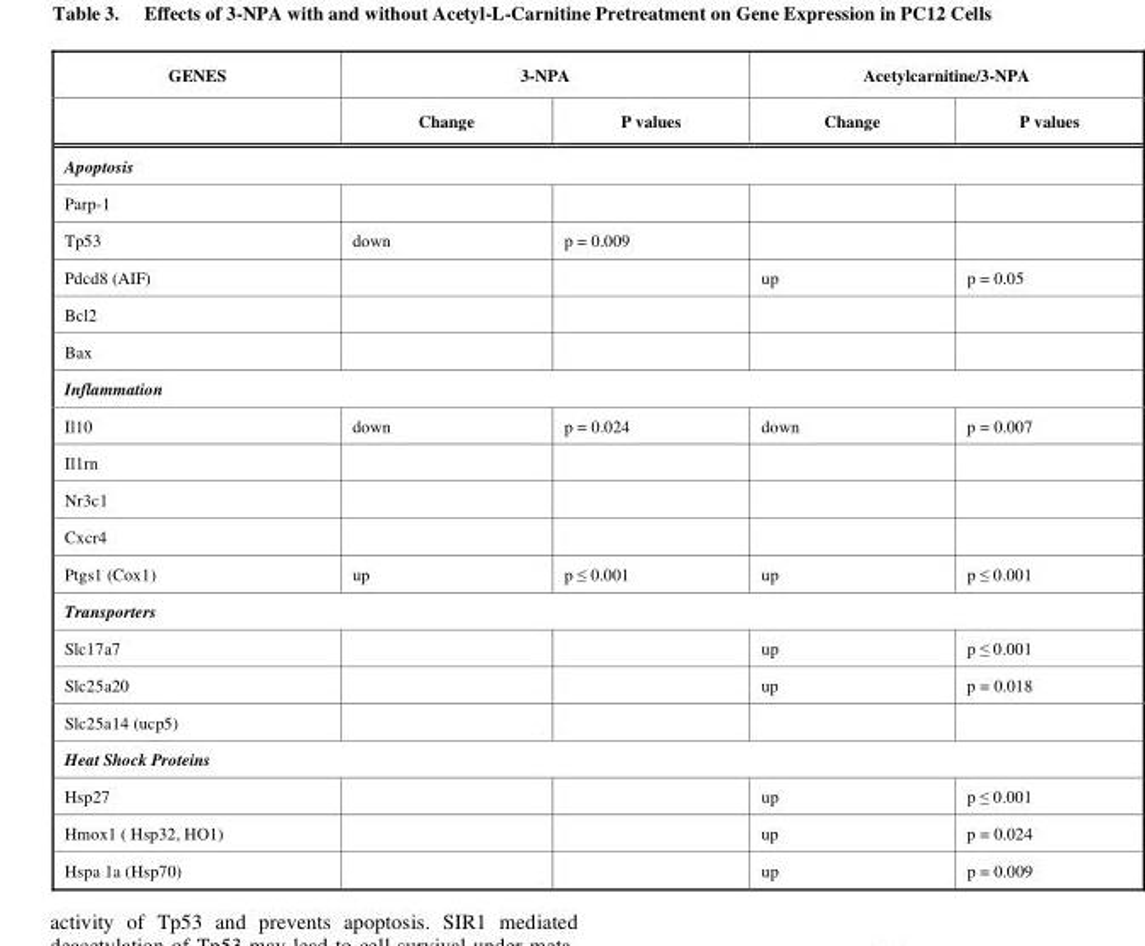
<table><thead><tr><td rowspan="2">GENES</td><td colspan="2">3-NPA</td><td colspan="2">Acetylcarnitine/3-NPA</td></tr><tr><td>Change</td><td>P values</td><td>Change</td><td>P values</td></tr></thead><tbody><tr><td colspan="5">Apoptosis</td></tr><tr><td colspan="5">Parp-1</td></tr><tr><td>Tp53</td><td>down</td><td>p = 0.009</td><td></td><td></td></tr><tr><td>Pdcd8 (AIF)</td><td></td><td></td><td>up</td><td>p = 0.05</td></tr><tr><td colspan="5">Bcl2</td></tr><tr><td colspan="5">Bax</td></tr><tr><td colspan="5">Inflammation</td></tr><tr><td>Il10</td><td>down</td><td>p = 0.024</td><td>down</td><td>p = 0.007</td></tr><tr><td colspan="5">Il1rn</td></tr><tr><td colspan="5">Nr3c1</td></tr><tr><td colspan="5">Cxcr4</td></tr><tr><td>Ptgs1 (Cox1)</td><td>up</td><td>p ≤ 0.001</td><td>up</td><td>p ≤ 0.001</td></tr><tr><td colspan="5">Transporters</td></tr><tr><td>Slc17a7</td><td></td><td></td><td>up</td><td>p ≤ 0.001</td></tr><tr><td>Slc25a20</td><td></td><td></td><td>up</td><td>p = 0.018</td></tr><tr><td colspan="5">Slc25a14 (ucp5)</td></tr><tr><td colspan="5">Heat Shock Proteins</td></tr><tr><td>Hsp27</td><td></td><td></td><td>up</td><td>p ≤ 0.001</td></tr><tr><td>Hmox1 ( Hsp32, HO1)</td><td></td><td></td><td>up</td><td>p = 0.024</td></tr><tr><td>Hspa 1a (Hsp70)</td><td></td><td></td><td>up</td><td>p = 0.009</td></tr></tbody></table>